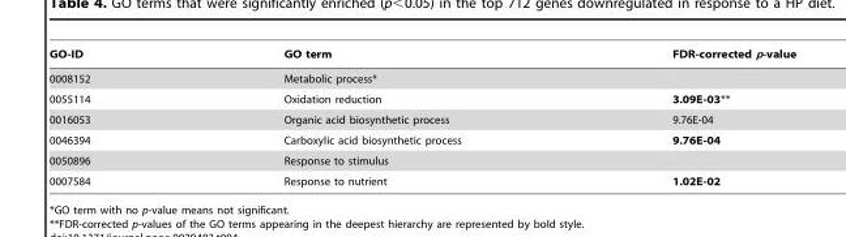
<table><thead><tr><td>GO-ID</td><td>GO term</td><td>FDR-corrected p-value</td></tr></thead><tbody><tr><td>0008152</td><td>Metabolic process*</td><td></td></tr><tr><td>0055114</td><td>Oxidation reduction</td><td>3.09E-03**</td></tr><tr><td>0016053</td><td>Organic acid biosynthetic process</td><td>9.76E-04</td></tr><tr><td>0046394</td><td>Carboxylic acid biosynthetic process</td><td>9.76E-04</td></tr><tr><td>0050896</td><td>Response to stimulus</td><td></td></tr><tr><td>0007584</td><td>Response to nutrient</td><td>1.02E-02</td></tr></tbody></table>